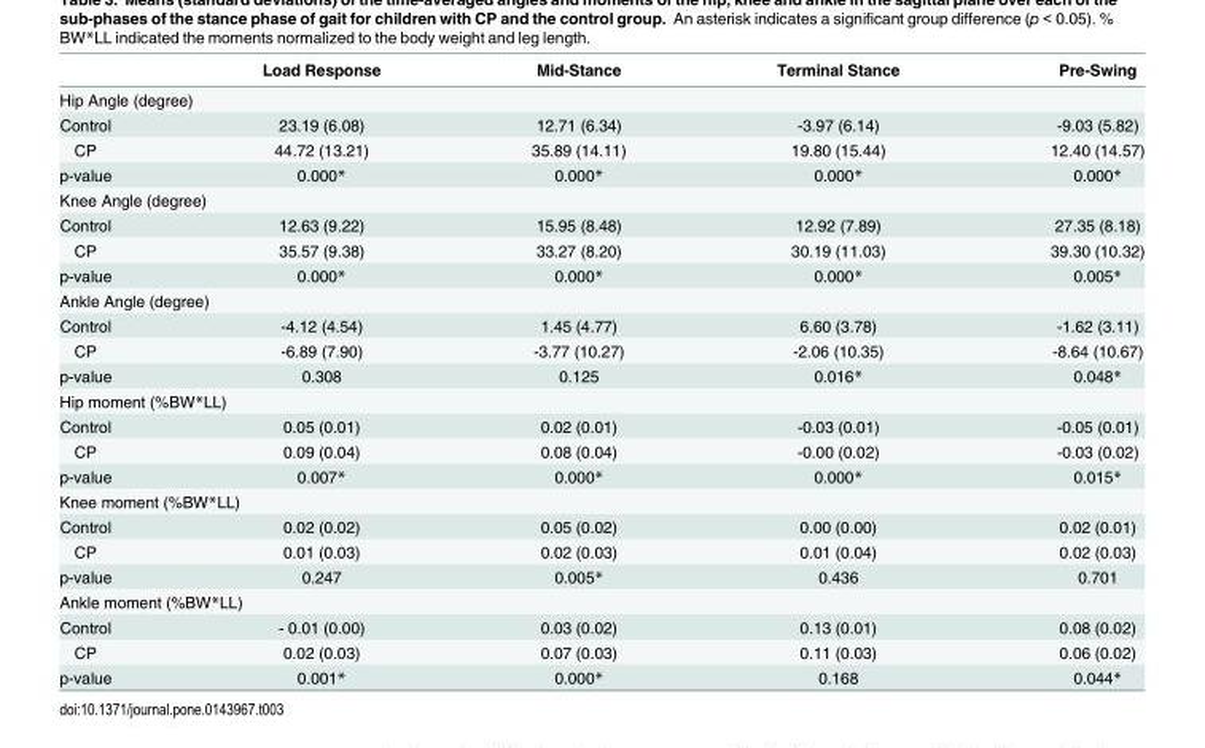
<table><thead><tr><td></td><td>Load Response</td><td>Mid-Stance</td><td>Terminal Stance</td><td>Pre-Swing</td></tr></thead><tbody><tr><td colspan="5">Hip Angle (degree)</td></tr><tr><td>Control</td><td>23.19 (6.08)</td><td>12.71 (6.34)</td><td>-3.97 (6.14)</td><td>-9.03 (5.82)</td></tr><tr><td>CP</td><td>44.72 (13.21)</td><td>35.89 (14.11)</td><td>19.80 (15.44)</td><td>12.40 (14.57)</td></tr><tr><td>p-value</td><td>0.000*</td><td>0.000*</td><td>0.000*</td><td>0.000*</td></tr><tr><td colspan="5">Knee Angle (degree)</td></tr><tr><td>Control</td><td>12.63 (9.22)</td><td>15.95 (8.48)</td><td>12.92 (7.89)</td><td>27.35 (8.18)</td></tr><tr><td>CP</td><td>35.57 (9.38)</td><td>33.27 (8.20)</td><td>30.19 (11.03)</td><td>39.30 (10.32)</td></tr><tr><td>p-value</td><td>0.000*</td><td>0.000*</td><td>0.000*</td><td>0.005*</td></tr><tr><td colspan="5">Ankle Angle (degree)</td></tr><tr><td>Control</td><td>-4.12 (4.54)</td><td>1.45 (4.77)</td><td>6.60 (3.78)</td><td>-1.62 (3.11)</td></tr><tr><td>CP</td><td>-6.89 (7.90)</td><td>-3.77 (10.27)</td><td>-2.06 (10.35)</td><td>-8.64 (10.67)</td></tr><tr><td>p-value</td><td>0.308</td><td>0.125</td><td>0.016*</td><td>0.048*</td></tr><tr><td colspan="5">Hip moment (%BW*LL)</td></tr><tr><td>Control</td><td>0.05 (0.01)</td><td>0.02 (0.01)</td><td>-0.03 (0.01)</td><td>-0.05 (0.01)</td></tr><tr><td>CP</td><td>0.09 (0.04)</td><td>0.08 (0.04)</td><td>-0.00 (0.02)</td><td>-0.03 (0.02)</td></tr><tr><td>p-value</td><td>0.007*</td><td>0.000*</td><td>0.000*</td><td>0.015*</td></tr><tr><td colspan="5">Knee moment (%BW*LL)</td></tr><tr><td>Control</td><td>0.02 (0.02)</td><td>0.05 (0.02)</td><td>0.00 (0.00)</td><td>0.02 (0.01)</td></tr><tr><td>CP</td><td>0.01 (0.03)</td><td>0.02 (0.03)</td><td>0.01 (0.04)</td><td>0.02 (0.03)</td></tr><tr><td>p-value</td><td>0.247</td><td>0.005*</td><td>0.436</td><td>0.701</td></tr><tr><td colspan="5">Ankle moment (%BW*LL)</td></tr><tr><td>Control</td><td>- 0.01 (0.00)</td><td>0.03 (0.02)</td><td>0.13 (0.01)</td><td>0.08 (0.02)</td></tr><tr><td>CP</td><td>0.02 (0.03)</td><td>0.07 (0.03)</td><td>0.11 (0.03)</td><td>0.06 (0.02)</td></tr><tr><td>p-value</td><td>0.001*</td><td>0.000*</td><td>0.168</td><td>0.044*</td></tr></tbody></table>